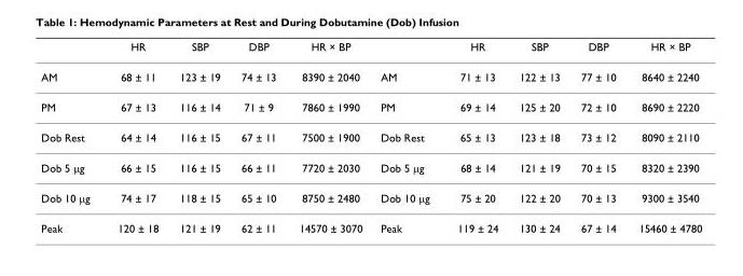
<table><thead><tr><td></td><td>HR</td><td>SBP</td><td>DBP</td><td>HR × BP</td><td></td><td>HR</td><td>SBP</td><td>DBP</td><td>HR × BP</td></tr></thead><tbody><tr><td>AM</td><td>68 ± 11</td><td>123 ± 19</td><td>74 ± 13</td><td>8390 ± 2040</td><td>AM</td><td>71 ± 13</td><td>122 ± 13</td><td>77 ± 10</td><td>8640 ± 2240</td></tr><tr><td>PM</td><td>67 ± 13</td><td>116 ± 14</td><td>71 ± 9</td><td>7860 ± 1990</td><td>PM</td><td>69 ± 14</td><td>125 ± 20</td><td>72 ± 10</td><td>8690 ± 2220</td></tr><tr><td>Dob Rest</td><td>64 ± 14</td><td>116 ± 15</td><td>67 ± 11</td><td>7500 ± 1900</td><td>Dob Rest</td><td>65 ± 13</td><td>123 ± 18</td><td>73 ± 12</td><td>8090 ± 2110</td></tr><tr><td>Dob 5 μg</td><td>66 ± 15</td><td>116 ± 15</td><td>66 ± 11</td><td>7720 ± 2030</td><td>Dob 5 μg</td><td>68 ± 14</td><td>121 ± 19</td><td>70 ± 15</td><td>8320 ± 2390</td></tr><tr><td>Dob 10 μg</td><td>74 ± 17</td><td>118 ± 15</td><td>65 ± 10</td><td>8750 ± 2480</td><td>Dob 10 μg</td><td>75 ± 20</td><td>122 ± 20</td><td>70 ± 13</td><td>9300 ± 3540</td></tr><tr><td>Peak</td><td>120 ± 18</td><td>121 ± 19</td><td>62 ± 11</td><td>14570 ± 3070</td><td>Peak</td><td>119 ± 24</td><td>130 ± 24</td><td>67 ± 14</td><td>15460 ± 4780</td></tr></tbody></table>